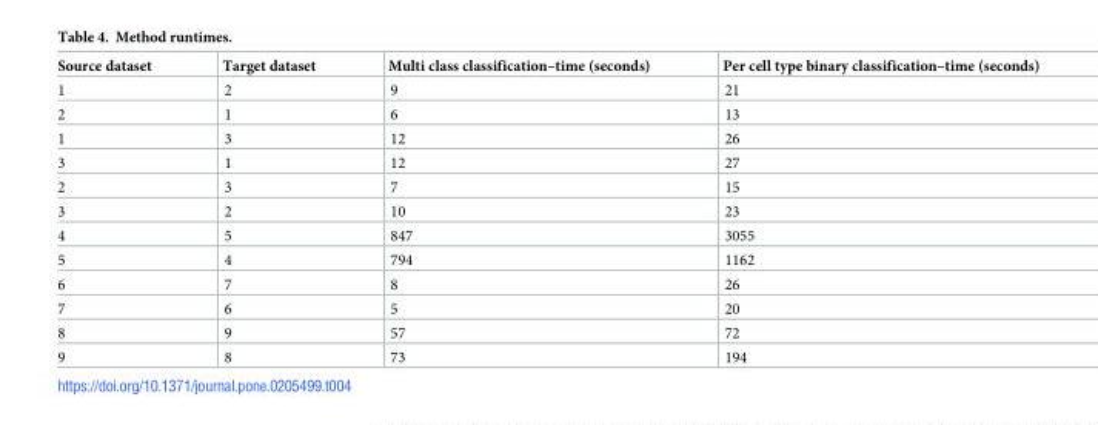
<table><thead><tr><td>Source dataset</td><td>Target dataset</td><td>Multi class classification–time (seconds)</td><td>Per cell type binary classification–time (seconds)</td></tr></thead><tbody><tr><td>1</td><td>2</td><td>9</td><td>21</td></tr><tr><td>2</td><td>1</td><td>6</td><td>13</td></tr><tr><td>1</td><td>3</td><td>12</td><td>26</td></tr><tr><td>3</td><td>1</td><td>12</td><td>27</td></tr><tr><td>2</td><td>3</td><td>7</td><td>15</td></tr><tr><td>3</td><td>2</td><td>10</td><td>23</td></tr><tr><td>4</td><td>5</td><td>847</td><td>3055</td></tr><tr><td>5</td><td>4</td><td>794</td><td>1162</td></tr><tr><td>6</td><td>7</td><td>8</td><td>26</td></tr><tr><td>7</td><td>6</td><td>5</td><td>20</td></tr><tr><td>8</td><td>9</td><td>57</td><td>72</td></tr><tr><td>9</td><td>8</td><td>73</td><td>194</td></tr></tbody></table>